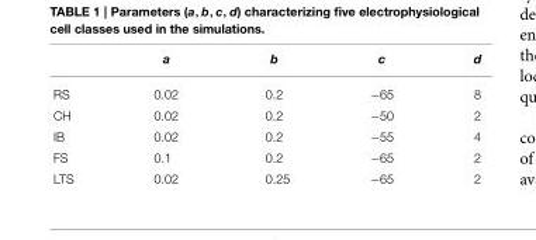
<table><thead><tr><td></td><td>a</td><td>b</td><td>c</td><td>d</td></tr></thead><tbody><tr><td>RS</td><td>0.02</td><td>0.2</td><td>−65</td><td>8</td></tr><tr><td>CH</td><td>0.02</td><td>0.2</td><td>−50</td><td>2</td></tr><tr><td>IB</td><td>0.02</td><td>0.2</td><td>−55</td><td>4</td></tr><tr><td>FS</td><td>0.1</td><td>0.2</td><td>−65</td><td>2</td></tr><tr><td>LTS</td><td>0.02</td><td>0.25</td><td>−65</td><td>2</td></tr></tbody></table>